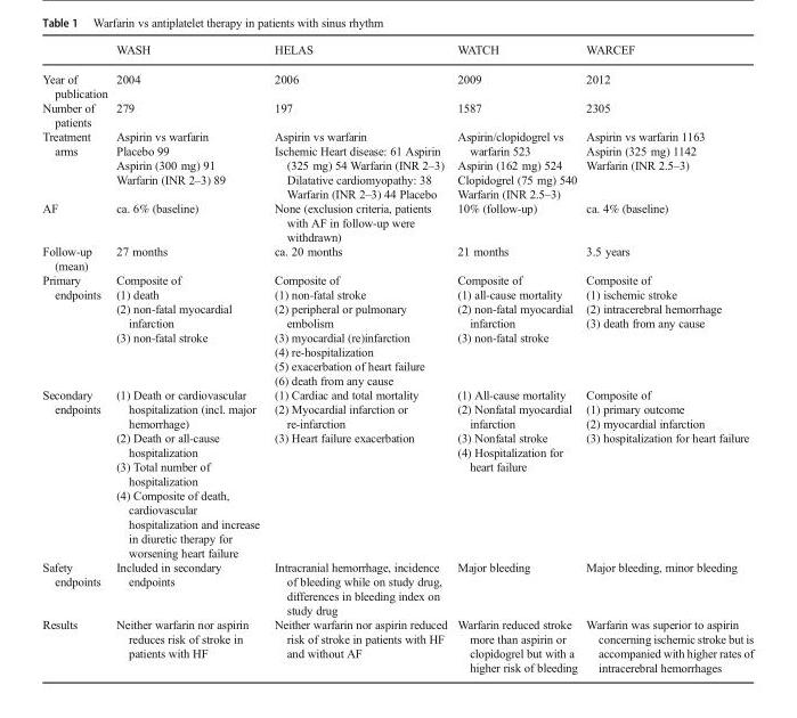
<table><thead><tr><td></td><td>WASH</td><td>HELAS</td><td>WATCH</td><td>WARCEF</td></tr></thead><tbody><tr><td>Year of publication</td><td>2004</td><td>2006</td><td>2009</td><td>2012</td></tr><tr><td>Number of patients</td><td>279</td><td>197</td><td>1587</td><td>2305</td></tr><tr><td>Treatment arms</td><td>Aspirin vs warfarin Placebo 99 Aspirin (300 mg) 91 Warfarin (INR 2–3) 89</td><td>Aspirin vs warfarin Ischemic Heart disease: 61 Aspirin (325 mg) 54 Warfarin (INR 2–3) Dilatative cardiomyopathy: 38 Warfarin (INR 2–3) 44 Placebo</td><td>Aspirin/clopidogrel vs warfarin 523 Aspirin (162 mg) 524 Clopidogrel (75 mg) 540 Warfarin (INR 2.5–3)</td><td>Aspirin vs warfarin 1163 Aspirin (325 mg) 1142 Warfarin (INR 2.5–3)</td></tr><tr><td>AF</td><td>ca. 6% (baseline)</td><td>None (exclusion criteria, patients with AF in follow-up were withdrawn)</td><td>10% (follow-up)</td><td>ca. 4% (baseline)</td></tr><tr><td>Follow-up (mean)</td><td>27 months</td><td>ca. 20 months</td><td>21 months</td><td>3.5 years</td></tr><tr><td>Primary endpoints</td><td>Composite of (1) death (2) non-fatal myocardial infarction (3) non-fatal stroke</td><td>Composite of (1) non-fatal stroke (2) peripheral or pulmonary embolism (3) myocardial (re)infarction (4) re-hospitalization (5) exacerbation of heart failure (6) death from any cause</td><td>Composite of (1) all-cause mortality (2) non-fatal myocardial infarction (3) non-fatal stroke</td><td>Composite of (1) ischemic stroke (2) intracerebral hemorrhage (3) death from any cause</td></tr><tr><td>Secondary endpoints</td><td>(1) Death or cardiovascular hospitalization (incl. major hemorrhage) (2) Death or all-cause hospitalization (3) Total number of hospitalization (4) Composite of death, cardiovascular hospitalization and increase in diuretic therapy for worsening heart failure</td><td>(1) Cardiac and total mortality (2) Myocardial infarction or re-infarction (3) Heart failure exacerbation</td><td>(1) All-cause mortality (2) Nonfatal myocardial infarction (3) Nonfatal stroke (4) Hospitalization for heart failure</td><td>Composite of (1) primary outcome (2) myocardial infarction (3) hospitalization for heart failure</td></tr><tr><td>Safety endpoints</td><td>Included in secondary endpoints</td><td>Intracranial hemorrhage, incidence of bleeding while on study drug, differences in bleeding index on study drug</td><td>Major bleeding</td><td>Major bleeding, minor bleeding</td></tr><tr><td>Results</td><td>Neither warfarin nor aspirin reduces risk of stroke in patients with HF</td><td>Neither warfarin nor aspirin reduced risk of stroke in patients with HF and without AF</td><td>Warfarin reduced stroke more than aspirin or clopidogrel but with a higher risk of bleeding</td><td>Warfarin was superior to aspirin concerning ischemic stroke but is accompanied with higher rates of intracerebral hemorrhages</td></tr></tbody></table>